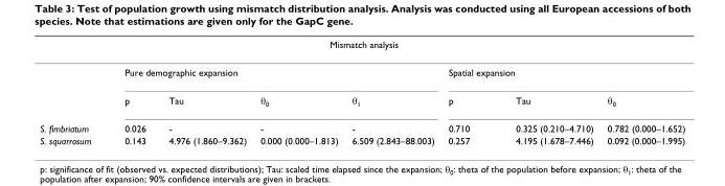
<table><thead><tr><td colspan="8">Mismatch analysis</td></tr><tr><td rowspan="2"></td><td colspan="4">Pure demographic expansion</td><td colspan="3">Spatial expansion</td></tr><tr><td>p</td><td>Tau</td><td>θ<sub>0</sub></td><td>θ<sub>1</sub></td><td>p</td><td>Tau</td><td>θ<sub>0</sub></td></tr></thead><tbody><tr><td>S. fimbriatum</td><td>0.026</td><td>-</td><td>-</td><td>-</td><td>0.710</td><td>0.325 (0.210–4.710)</td><td>0.782 (0.000–1.652)</td></tr><tr><td>S. squarrosum</td><td>0.143</td><td>4.976 (1.860–9.362)</td><td>0.000 (0.000–1.813)</td><td>6.509 (2.843–88.003)</td><td>0.257</td><td>4.195 (1.678–7.446)</td><td>0.092 (0.000–1.995)</td></tr></tbody></table>